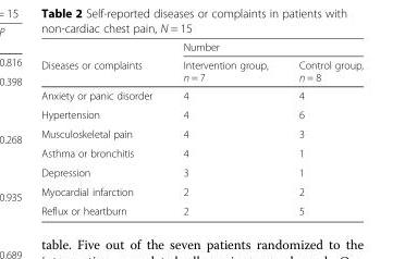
<table><thead><tr><td rowspan="2">Diseases or complaints</td><td colspan="2">Number</td></tr><tr><td>Intervention group, n = 7</td><td>Control group, n = 8</td></tr></thead><tbody><tr><td>Anxiety or panic disorder</td><td>4</td><td>4</td></tr><tr><td>Hypertension</td><td>4</td><td>6</td></tr><tr><td>Musculoskeletal pain</td><td>4</td><td>3</td></tr><tr><td>Asthma or bronchitis</td><td>4</td><td>1</td></tr><tr><td>Depression</td><td>3</td><td>1</td></tr><tr><td>Myocardial infarction</td><td>2</td><td>2</td></tr><tr><td>Reflux or heartburn</td><td>2</td><td>5</td></tr></tbody></table>